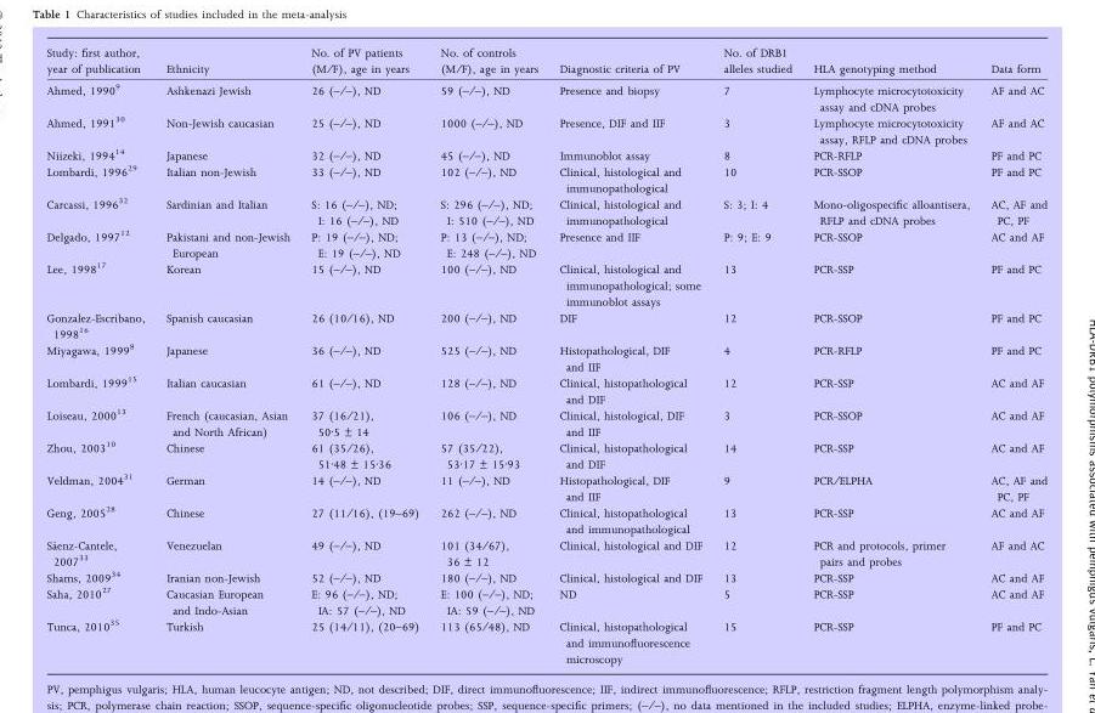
<table><thead><tr><td>Study: first author, year of publication</td><td>Ethnicity</td><td>No. of PV patients (M ⁄F), age in years</td><td>No. of controls (M ⁄F), age in years</td><td>Diagnostic criteria of PV</td><td>No. of DRB1 alleles studied</td><td>HLA genotyping method</td><td>Data form</td></tr></thead><tbody><tr><td>Ahmed, 1990<sup>9</sup></td><td>Ashkenazi Jewish</td><td>26 (– ⁄–), ND</td><td>59 (– ⁄–), ND</td><td>Presence and biopsy</td><td>7</td><td>Lymphocyte microcytotoxicity assay and cDNA probes</td><td>AF and AC</td></tr><tr><td>Ahmed, 1991<sup>30</sup></td><td>Non-Jewish caucasian</td><td>25 (– ⁄–), ND</td><td>1000 (– ⁄–), ND</td><td>Presence, DIF and IIF</td><td>3</td><td>Lymphocyte microcytotoxicity assay, RFLP and cDNA probes</td><td>AF and AC</td></tr><tr><td>Niizeki, 1994<sup>14</sup></td><td>Japanese</td><td>32 (– ⁄–), ND</td><td>45 (– ⁄–), ND</td><td>Immunoblot assay</td><td>8</td><td>PCR-RFLP</td><td>PF and PC</td></tr><tr><td>Lombardi, 1996<sup>29</sup></td><td>Italian non-Jewish</td><td>33 (– ⁄–), ND</td><td>102 (– ⁄–), ND</td><td>Clinical, histological and immunopathological</td><td>10</td><td>PCR-SSOP</td><td>PF and PC</td></tr><tr><td>Carcassi, 1996<sup>32</sup></td><td>Sardinian and Italian</td><td>S: 16 (– ⁄–), ND; I: 16 (– ⁄–), ND</td><td>S: 296 (– ⁄–), ND; I: 510 (– ⁄–), ND</td><td>Clinical, histological and immunopathological</td><td>S: 3; I: 4</td><td>Mono-oligospecific alloantisera, RFLP and cDNA probes</td><td>AC, AF and PC, PF</td></tr><tr><td>Delgado, 1997<sup>12</sup></td><td>Pakistani and non-Jewish European</td><td>P: 19 (– ⁄–), ND; E: 19 (– ⁄–), ND</td><td>P: 13 (– ⁄–), ND; E: 248 (– ⁄–), ND</td><td>Presence and IIF</td><td>P: 9; E: 9</td><td>PCR-SSOP</td><td>AC and AF</td></tr><tr><td>Lee, 1998<sup>17</sup></td><td>Korean</td><td>15 (– ⁄–), ND</td><td>100 (– ⁄–), ND</td><td>Clinical, histological and immunopathological; some immunoblot assays</td><td>13</td><td>PCR-SSP</td><td>PF and PC</td></tr><tr><td>Gonzalez-Escribano, 1998<sup>16</sup></td><td>Spanish caucasian</td><td>26 (10 ⁄16), ND</td><td>200 (– ⁄–), ND</td><td>DIF</td><td>12</td><td>PCR-SSOP</td><td>PF and PC</td></tr><tr><td>Miyagawa, 1999<sup>8</sup></td><td>Japanese</td><td>36 (– ⁄–), ND</td><td>525 (– ⁄–), ND</td><td>Histopathological, DIF and IIF</td><td>4</td><td>PCR-RFLP</td><td>PF and PC</td></tr><tr><td>Lombardi, 1999<sup>15</sup></td><td>Italian caucasian</td><td>61 (– ⁄–), ND</td><td>128 (– ⁄–), ND</td><td>Clinical, histopathological and DIF</td><td>12</td><td>PCR-SSP</td><td>AC and AF</td></tr><tr><td>Loiseau, 2000<sup>13</sup></td><td>French (caucasian, Asian and North African)</td><td>37 (16 ⁄21), 50Æ5 ± 14</td><td>106 (– ⁄–), ND</td><td>Clinical, histological, DIF and IIF</td><td>3</td><td>PCR-SSOP</td><td>AC and AF</td></tr><tr><td>Zhou, 2003<sup>10</sup></td><td>Chinese</td><td>61 (35 ⁄26), 51Æ48 ± 15Æ36</td><td>57 (35 ⁄22), 53Æ17 ± 15Æ93</td><td>Clinical, histopathological and DIF</td><td>14</td><td>PCR-SSP</td><td>AC and AF</td></tr><tr><td>Veldman, 2004<sup>31</sup></td><td>German</td><td>14 (– ⁄–), ND</td><td>11 (– ⁄–), ND</td><td>Histopathological, DIF and IIF</td><td>9</td><td>PCR ⁄ELPHA</td><td>AC, AF and PC, PF</td></tr><tr><td>Geng, 2005<sup>28</sup></td><td>Chinese</td><td>27 (11 ⁄16), (19–69)</td><td>262 (– ⁄–), ND</td><td>Clinical, histopathological and immunopathological</td><td>13</td><td>PCR-SSP</td><td>AC and AF</td></tr><tr><td>Sa´enz-Cantele, 200733</td><td>Venezuelan</td><td>49 (– ⁄–), ND</td><td>101 (34 ⁄67), 36 ± 12</td><td>Clinical, histological and DIF</td><td>12</td><td>PCR and protocols, primer pairs and probes</td><td>AF and AC</td></tr><tr><td>Shams, 2009<sup>34</sup></td><td>Iranian non-Jewish</td><td>52 (– ⁄–), ND</td><td>180 (– ⁄–), ND</td><td>Clinical, histological and DIF</td><td>13</td><td>PCR-SSP</td><td>AC and AF</td></tr><tr><td>Saha, 2010<sup>27</sup></td><td>Caucasian European and Indo-Asian</td><td>E: 96 (– ⁄–), ND; IA: 57 (– ⁄–), ND</td><td>E: 100 (– ⁄–), ND; IA: 59 (– ⁄–), ND</td><td>ND</td><td>5</td><td>PCR-SSP</td><td>AC and AF</td></tr><tr><td>Tunca, 2010<sup>35</sup></td><td>Turkish</td><td>25 (14 ⁄11), (20–69)</td><td>113 (65 ⁄48), ND</td><td>Clinical, histopathological and immunofluorescence microscopy</td><td>15</td><td>PCR-SSP</td><td>PF and PC</td></tr></tbody></table>